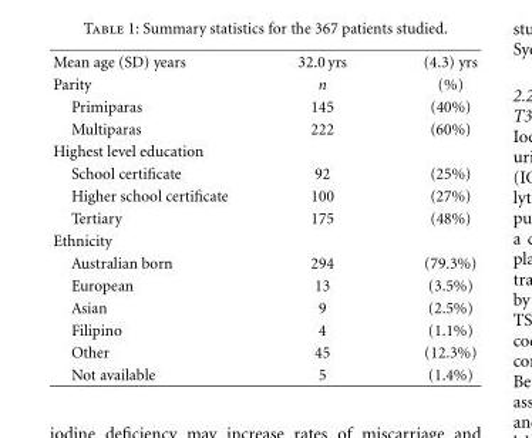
<table><tbody><tr><td>Mean age (SD) years</td><td>32.0 yrs</td><td>(4.3) yrs</td></tr><tr><td>Parity</td><td>n</td><td>(%)</td></tr><tr><td>Primiparas</td><td>145</td><td>(40%)</td></tr><tr><td>Multiparas</td><td>222</td><td>(60%)</td></tr><tr><td colspan="3">Highest level education</td></tr><tr><td>School certificate</td><td>92</td><td>(25%)</td></tr><tr><td>Higher school certificate</td><td>100</td><td>(27%)</td></tr><tr><td>Tertiary</td><td>175</td><td>(48%)</td></tr><tr><td colspan="3">Ethnicity</td></tr><tr><td>Australian born</td><td>294</td><td>(79.3%)</td></tr><tr><td>European</td><td>13</td><td>(3.5%)</td></tr><tr><td>Asian</td><td>9</td><td>(2.5%)</td></tr><tr><td>Filipino</td><td>4</td><td>(1.1%)</td></tr><tr><td>Other</td><td>45</td><td>(12.3%)</td></tr><tr><td>Not available</td><td>5</td><td>(1.4%)</td></tr></tbody></table>